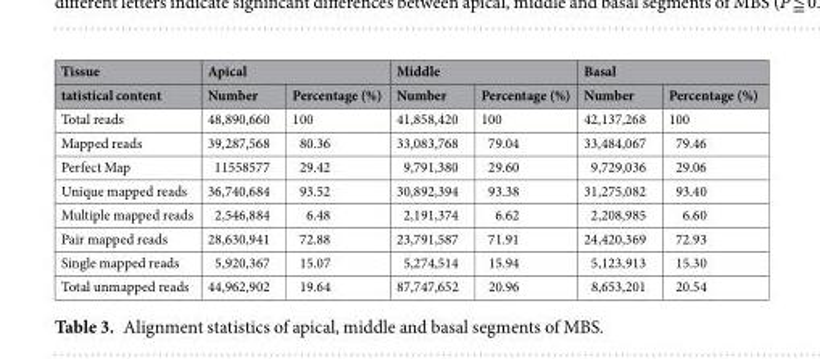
<table><thead><tr><td rowspan="2">Tissue tatistical content</td><td colspan="2">Apical</td><td colspan="2">Middle</td><td colspan="2">Basal</td></tr><tr><td>Number</td><td>Percentage (%)</td><td>Number</td><td>Percentage (%)</td><td>Number</td><td>Percentage (%)</td></tr></thead><tbody><tr><td>Total reads</td><td>48,890,660</td><td>100</td><td>41,858,420</td><td>100</td><td>42,137,268</td><td>100</td></tr><tr><td>Mapped reads</td><td>39,287,568</td><td>80.36</td><td>33,083,768</td><td>79.04</td><td>33,484,067</td><td>79.46</td></tr><tr><td>Perfect Map</td><td>11558577</td><td>29.42</td><td>9,791,380</td><td>29.60</td><td>9,729,036</td><td>29.06</td></tr><tr><td>Unique mapped reads</td><td>36,740,684</td><td>93.52</td><td>30,892,394</td><td>93.38</td><td>31,275,082</td><td>93.40</td></tr><tr><td>Multiple mapped reads</td><td>2,546,884</td><td>6.48</td><td>2,191,374</td><td>6.62</td><td>2,208,985</td><td>6.60</td></tr><tr><td>Pair mapped reads</td><td>28,630,941</td><td>72.88</td><td>23,791,587</td><td>71.91</td><td>24,420,369</td><td>72.93</td></tr><tr><td>Single mapped reads</td><td>5,920,367</td><td>15.07</td><td>5,274,514</td><td>15.94</td><td>5,123,913</td><td>15.30</td></tr><tr><td>Total unmapped reads</td><td>44,962,902</td><td>19.64</td><td>87,747,652</td><td>20.96</td><td>8,653,201</td><td>20.54</td></tr></tbody></table>